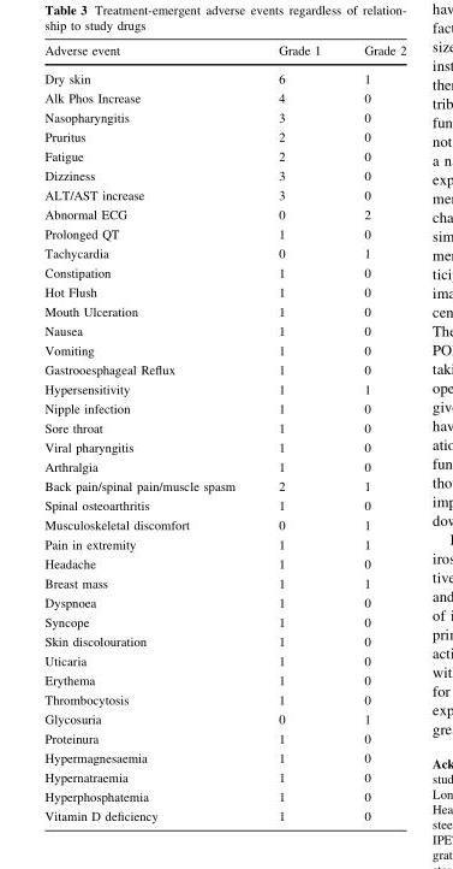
<table><thead><tr><td>Adverse event</td><td>Grade 1</td><td>Grade 2</td></tr></thead><tbody><tr><td>Dry skin</td><td>6</td><td>1</td></tr><tr><td>Alk Phos Increase</td><td>4</td><td>0</td></tr><tr><td>Nasopharyngitis</td><td>3</td><td>0</td></tr><tr><td>Pruritus</td><td>2</td><td>0</td></tr><tr><td>Fatigue</td><td>2</td><td>0</td></tr><tr><td>Dizziness</td><td>3</td><td>0</td></tr><tr><td>ALT/AST increase</td><td>3</td><td>0</td></tr><tr><td>Abnormal ECG</td><td>0</td><td>2</td></tr><tr><td>Prolonged QT</td><td>1</td><td>0</td></tr><tr><td>Tachycardia</td><td>0</td><td>1</td></tr><tr><td>Constipation</td><td>1</td><td>0</td></tr><tr><td>Hot Flush</td><td>1</td><td>0</td></tr><tr><td>Mouth Ulceration</td><td>1</td><td>0</td></tr><tr><td>Nausea</td><td>1</td><td>0</td></tr><tr><td>Vomiting</td><td>1</td><td>0</td></tr><tr><td>Gastrooesphageal Reflux</td><td>1</td><td>0</td></tr><tr><td>Hypersensitivity</td><td>1</td><td>1</td></tr><tr><td>Nipple infection</td><td>1</td><td>0</td></tr><tr><td>Sore throat</td><td>1</td><td>0</td></tr><tr><td>Viral pharyngitis</td><td>1</td><td>0</td></tr><tr><td>Arthralgia</td><td>1</td><td>0</td></tr><tr><td>Back pain/spinal pain/muscle spasm</td><td>2</td><td>1</td></tr><tr><td>Spinal osteoarthritis</td><td>1</td><td>0</td></tr><tr><td>Musculoskeletal discomfort</td><td>0</td><td>1</td></tr><tr><td>Pain in extremity</td><td>1</td><td>1</td></tr><tr><td>Headache</td><td>1</td><td>0</td></tr><tr><td>Breast mass</td><td>1</td><td>1</td></tr><tr><td>Dyspnoea</td><td>1</td><td>0</td></tr><tr><td>Syncope</td><td>1</td><td>0</td></tr><tr><td>Skin discolouration</td><td>1</td><td>0</td></tr><tr><td>Uticaria</td><td>1</td><td>0</td></tr><tr><td>Erythema</td><td>1</td><td>0</td></tr><tr><td>Thrombocytosis</td><td>1</td><td>0</td></tr><tr><td>Glycosuria</td><td>0</td><td>1</td></tr><tr><td>Proteinura</td><td>1</td><td>0</td></tr><tr><td>Hypermagnesaemia</td><td>1</td><td>0</td></tr><tr><td>Hypernatraemia</td><td>1</td><td>0</td></tr><tr><td>Hyperphosphatemia</td><td>1</td><td>0</td></tr><tr><td>Vitamin D deficiency</td><td>1</td><td>0</td></tr></tbody></table>